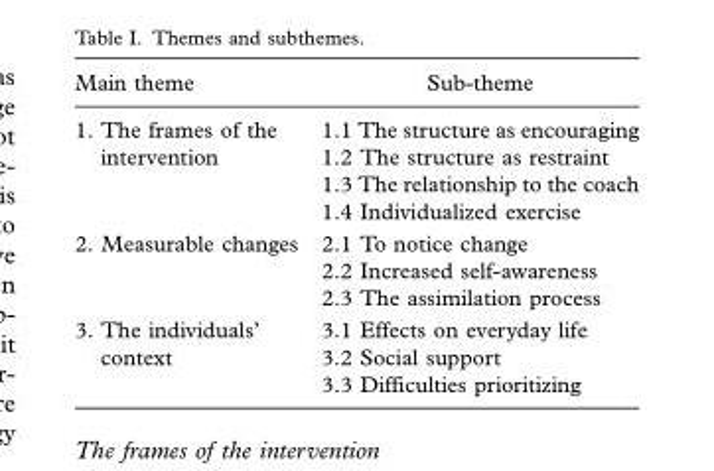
<table><thead><tr><td>Main theme</td><td>Sub-theme</td></tr></thead><tbody><tr><td>1. The frames of the</td><td>1.1 The structure as encouraging</td></tr><tr><td rowspan="3">intervention</td><td>1.2 The structure as restraint</td></tr><tr><td>1.3 The relationship to the coach</td></tr><tr><td>1.4 Individualized exercise</td></tr><tr><td rowspan="3">2. Measurable changes</td><td>2.1 To notice change</td></tr><tr><td>2.2 Increased self-awareness</td></tr><tr><td>2.3 The assimilation process</td></tr><tr><td>3. The individuals’</td><td>3.1 Effects on everyday life</td></tr><tr><td rowspan="2">context</td><td>3.2 Social support</td></tr><tr><td>3.3 Difficulties prioritizing</td></tr></tbody></table>